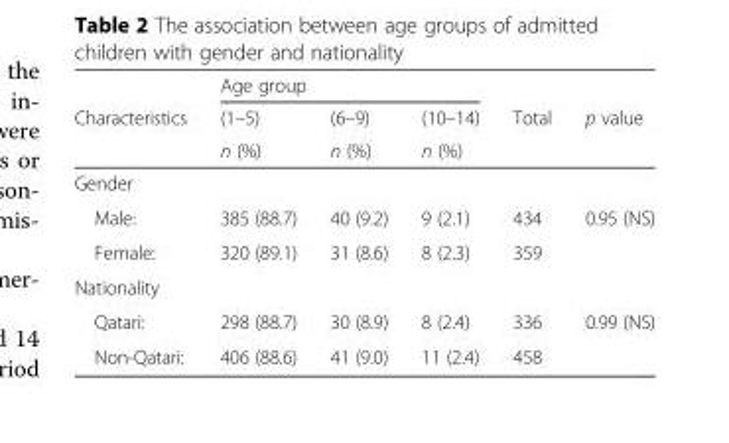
<table><thead><tr><td rowspan="3">Characteristics</td><td colspan="3">Age group</td><td rowspan="3">Total</td><td rowspan="3">p value</td></tr><tr><td rowspan="2">(1–5) n (%)</td><td rowspan="2">(6–9) n (%)</td><td rowspan="2">(10–14) n (%)</td></tr><tr></tr></thead><tbody><tr><td colspan="6">Gender</td></tr><tr><td>Male:</td><td>385 (88.7)</td><td>40 (9.2)</td><td>9 (2.1)</td><td>434</td><td>0.95 (NS)</td></tr><tr><td>Female:</td><td>320 (89.1)</td><td>31 (8.6)</td><td>8 (2.3)</td><td>359</td><td></td></tr><tr><td colspan="6">Nationality</td></tr><tr><td>Qatari:</td><td>298 (88.7)</td><td>30 (8.9)</td><td>8 (2.4)</td><td>336</td><td>0.99 (NS)</td></tr><tr><td>Non-Qatari:</td><td>406 (88.6)</td><td>41 (9.0)</td><td>11 (2.4)</td><td>458</td><td></td></tr></tbody></table>